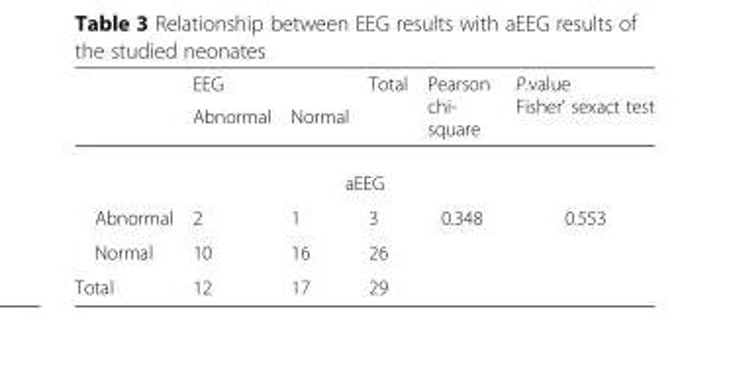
<table><thead><tr><td rowspan="2"></td><td rowspan="2">EEG Abnormal</td><td rowspan="2">Normal</td><td rowspan="2">Total</td><td rowspan="2">Pearson chi- square</td><td rowspan="2">P.value Fisher’ sexact test</td></tr><tr></tr></thead><tbody><tr><td colspan="6">aEEG</td></tr><tr><td>Abnormal</td><td>2</td><td>1</td><td>3</td><td rowspan="3">0.348</td><td rowspan="3">0.553</td></tr><tr><td>Normal</td><td>10</td><td>16</td><td>26</td></tr><tr><td>Total</td><td>12</td><td>17</td><td>29</td></tr></tbody></table>